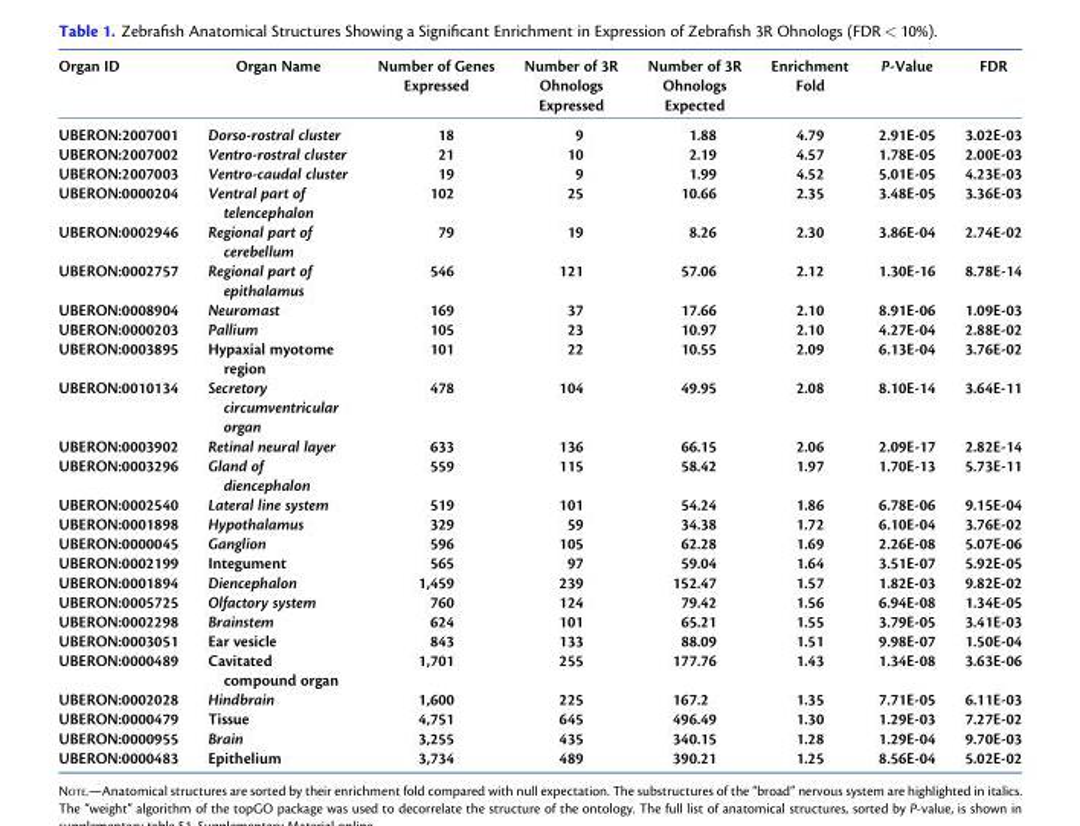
<table><thead><tr><td>Organ ID</td><td>Organ Name</td><td>Number of Genes Expressed</td><td>Number of 3R Ohnologs Expressed</td><td>Number of 3R Ohnologs Expected</td><td>Enrichment Fold</td><td>P-Value</td><td>FDR</td></tr></thead><tbody><tr><td>UBERON:2007001</td><td>Dorso-rostral cluster</td><td>18</td><td>9</td><td>1.88</td><td>4.79</td><td>2.91E-05</td><td>3.02E-03</td></tr><tr><td>UBERON:2007002</td><td>Ventro-rostral cluster</td><td>21</td><td>10</td><td>2.19</td><td>4.57</td><td>1.78E-05</td><td>2.00E-03</td></tr><tr><td>UBERON:2007003</td><td>Ventro-caudal cluster</td><td>19</td><td>9</td><td>1.99</td><td>4.52</td><td>5.01E-05</td><td>4.23E-03</td></tr><tr><td>UBERON:0000204</td><td>Ventral part of telencephalon</td><td>102</td><td>25</td><td>10.66</td><td>2.35</td><td>3.48E-05</td><td>3.36E-03</td></tr><tr><td>UBERON:0002946</td><td>Regional part of cerebellum</td><td>79</td><td>19</td><td>8.26</td><td>2.30</td><td>3.86E-04</td><td>2.74E-02</td></tr><tr><td>UBERON:0002757</td><td>Regional part of epithalamus</td><td>546</td><td>121</td><td>57.06</td><td>2.12</td><td>1.30E-16</td><td>8.78E-14</td></tr><tr><td>UBERON:0008904</td><td>Neuromast</td><td>169</td><td>37</td><td>17.66</td><td>2.10</td><td>8.91E-06</td><td>1.09E-03</td></tr><tr><td>UBERON:0000203</td><td>Pallium</td><td>105</td><td>23</td><td>10.97</td><td>2.10</td><td>4.27E-04</td><td>2.88E-02</td></tr><tr><td>UBERON:0003895</td><td>Hypaxial myotome region</td><td>101</td><td>22</td><td>10.55</td><td>2.09</td><td>6.13E-04</td><td>3.76E-02</td></tr><tr><td>UBERON:0010134</td><td>Secretory circumventricular organ</td><td>478</td><td>104</td><td>49.95</td><td>2.08</td><td>8.10E-14</td><td>3.64E-11</td></tr><tr><td>UBERON:0003902</td><td>Retinal neural layer</td><td>633</td><td>136</td><td>66.15</td><td>2.06</td><td>2.09E-17</td><td>2.82E-14</td></tr><tr><td>UBERON:0003296</td><td>Gland of diencephalon</td><td>559</td><td>115</td><td>58.42</td><td>1.97</td><td>1.70E-13</td><td>5.73E-11</td></tr><tr><td>UBERON:0002540</td><td>Lateral line system</td><td>519</td><td>101</td><td>54.24</td><td>1.86</td><td>6.78E-06</td><td>9.15E-04</td></tr><tr><td>UBERON:0001898</td><td>Hypothalamus</td><td>329</td><td>59</td><td>34.38</td><td>1.72</td><td>6.10E-04</td><td>3.76E-02</td></tr><tr><td>UBERON:0000045</td><td>Ganglion</td><td>596</td><td>105</td><td>62.28</td><td>1.69</td><td>2.26E-08</td><td>5.07E-06</td></tr><tr><td>UBERON:0002199</td><td>Integument</td><td>565</td><td>97</td><td>59.04</td><td>1.64</td><td>3.51E-07</td><td>5.92E-05</td></tr><tr><td>UBERON:0001894</td><td>Diencephalon</td><td>1,459</td><td>239</td><td>152.47</td><td>1.57</td><td>1.82E-03</td><td>9.82E-02</td></tr><tr><td>UBERON:0005725</td><td>Olfactory system</td><td>760</td><td>124</td><td>79.42</td><td>1.56</td><td>6.94E-08</td><td>1.34E-05</td></tr><tr><td>UBERON:0002298</td><td>Brainstem</td><td>624</td><td>101</td><td>65.21</td><td>1.55</td><td>3.79E-05</td><td>3.41E-03</td></tr><tr><td>UBERON:0003051</td><td>Ear vesicle</td><td>843</td><td>133</td><td>88.09</td><td>1.51</td><td>9.98E-07</td><td>1.50E-04</td></tr><tr><td>UBERON:0000489</td><td>Cavitated compound organ</td><td>1,701</td><td>255</td><td>177.76</td><td>1.43</td><td>1.34E-08</td><td>3.63E-06</td></tr><tr><td>UBERON:0002028</td><td>Hindbrain</td><td>1,600</td><td>225</td><td>167.2</td><td>1.35</td><td>7.71E-05</td><td>6.11E-03</td></tr><tr><td>UBERON:0000479</td><td>Tissue</td><td>4,751</td><td>645</td><td>496.49</td><td>1.30</td><td>1.29E-03</td><td>7.27E-02</td></tr><tr><td>UBERON:0000955</td><td>Brain</td><td>3,255</td><td>435</td><td>340.15</td><td>1.28</td><td>1.29E-04</td><td>9.70E-03</td></tr><tr><td>UBERON:0000483</td><td>Epithelium</td><td>3,734</td><td>489</td><td>390.21</td><td>1.25</td><td>8.56E-04</td><td>5.02E-02</td></tr></tbody></table>